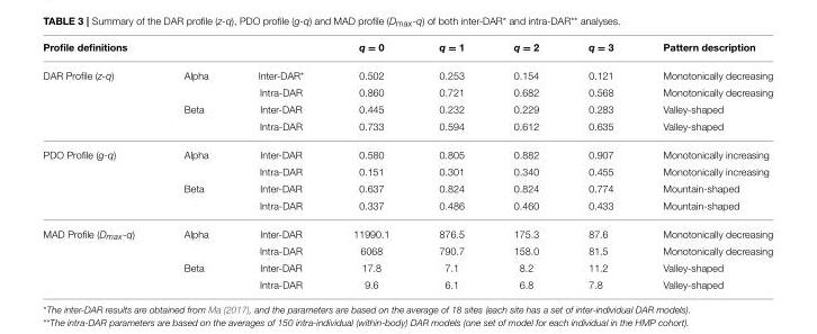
<table><thead><tr><td colspan="3">Profile definitions</td><td rowspan="2">q = 0 0.502</td><td rowspan="2">q = 1 0.253</td><td rowspan="2">q = 2 0.154</td><td rowspan="2">q = 3 0.121</td><td rowspan="2">Pattern description Monotonically decreasing</td></tr><tr><td>DAR Profile (z-q)</td><td>Alpha</td><td>Inter-DAR*</td></tr></thead><tbody><tr><td></td><td></td><td>Intra-DAR</td><td>0.860</td><td>0.721</td><td>0.682</td><td>0.568</td><td>Monotonically decreasing</td></tr><tr><td></td><td>Beta</td><td>Inter-DAR</td><td>0.445</td><td>0.232</td><td>0.229</td><td>0.283</td><td>Valley-shaped</td></tr><tr><td></td><td></td><td>Intra-DAR</td><td>0.733</td><td>0.594</td><td>0.612</td><td>0.635</td><td>Valley-shaped</td></tr><tr><td rowspan="4">PDO Profile (g-q)</td><td>Alpha</td><td>Inter-DAR</td><td>0.580</td><td>0.805</td><td>0.882</td><td>0.907</td><td>Monotonically increasing</td></tr><tr><td></td><td>Intra-DAR</td><td>0.151</td><td>0.301</td><td>0.340</td><td>0.455</td><td>Monotonically increasing</td></tr><tr><td>Beta</td><td>Inter-DAR</td><td>0.637</td><td>0.824</td><td>0.824</td><td>0.774</td><td>Mountain-shaped</td></tr><tr><td></td><td>Intra-DAR</td><td>0.337</td><td>0.486</td><td>0.460</td><td>0.433</td><td>Mountain-shaped</td></tr><tr><td rowspan="4">MAD Profile (Dmax-q)</td><td>Alpha</td><td>Inter-DAR</td><td>11990.1</td><td>876.5</td><td>175.3</td><td>87.6</td><td>Monotonically decreasing</td></tr><tr><td></td><td>Intra-DAR</td><td>6068</td><td>790.7</td><td>158.0</td><td>81.5</td><td>Monotonically decreasing</td></tr><tr><td>Beta</td><td>Inter-DAR</td><td>17.8</td><td>7.1</td><td>8.2</td><td>11.2</td><td>Valley-shaped</td></tr><tr><td></td><td>Intra-DAR</td><td>9.6</td><td>6.1</td><td>6.8</td><td>7.8</td><td>Valley-shaped</td></tr></tbody></table>